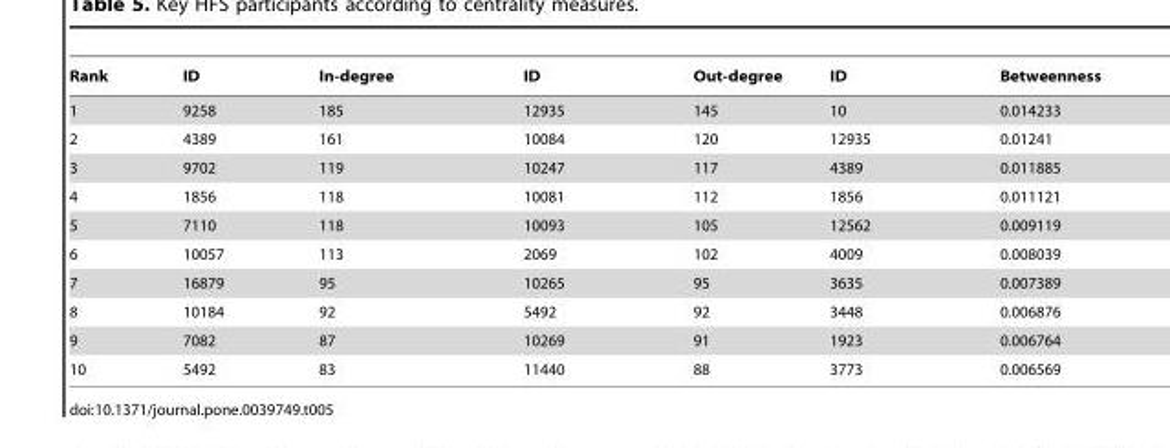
<table><thead><tr><td>Rank</td><td>ID</td><td>In-degree</td><td>ID</td><td>Out-degree</td><td>ID</td><td>Betweenness</td></tr></thead><tbody><tr><td>1</td><td>9258</td><td>185</td><td>12935</td><td>145</td><td>10</td><td>0.014233</td></tr><tr><td>2</td><td>4389</td><td>161</td><td>10084</td><td>120</td><td>12935</td><td>0.01241</td></tr><tr><td>3</td><td>9702</td><td>119</td><td>10247</td><td>117</td><td>4389</td><td>0.011885</td></tr><tr><td>4</td><td>1856</td><td>118</td><td>10081</td><td>112</td><td>1856</td><td>0.011121</td></tr><tr><td>5</td><td>7110</td><td>118</td><td>10093</td><td>105</td><td>12562</td><td>0.009119</td></tr><tr><td>6</td><td>10057</td><td>113</td><td>2069</td><td>102</td><td>4009</td><td>0.008039</td></tr><tr><td>7</td><td>16879</td><td>95</td><td>10265</td><td>95</td><td>3635</td><td>0.007389</td></tr><tr><td>8</td><td>10184</td><td>92</td><td>5492</td><td>92</td><td>3448</td><td>0.006876</td></tr><tr><td>9</td><td>7082</td><td>87</td><td>10269</td><td>91</td><td>1923</td><td>0.006764</td></tr><tr><td>10</td><td>5492</td><td>83</td><td>11440</td><td>88</td><td>3773</td><td>0.006569</td></tr></tbody></table>